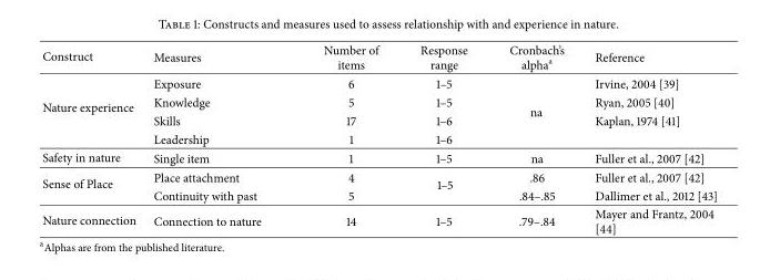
<table><thead><tr><td>Construct</td><td>Measures</td><td>Number of items</td><td>Response range</td><td>Cronbach’s alpha<sup>a</sup></td><td>Reference</td></tr></thead><tbody><tr><td rowspan="4">Nature experience</td><td>Exposure</td><td>6</td><td>1–5</td><td rowspan="4">na</td><td>Irvine, 2004 [39]</td></tr><tr><td>Knowledge</td><td>5</td><td>1–5</td><td>Ryan, 2005 [40]</td></tr><tr><td>Skills</td><td>17</td><td>1–6</td><td>Kaplan, 1974 [41]</td></tr><tr><td>Leadership</td><td>1</td><td>1–6</td><td></td></tr><tr><td>Safety in nature</td><td>Single item</td><td>1</td><td>1–5</td><td>na</td><td>Fuller et al., 2007 [42]</td></tr><tr><td rowspan="2">Sense of Place</td><td>Place attachment</td><td>4</td><td rowspan="2">1–5</td><td>.86</td><td>Fuller et al., 2007 [42]</td></tr><tr><td>Continuity with past</td><td>5</td><td>.84–.85</td><td>Dallimer et al., 2012 [43]</td></tr><tr><td>Nature connection</td><td>Connection to nature</td><td>14</td><td>1–5</td><td>.79–.84</td><td>Mayer and Frantz, 2004 [44]</td></tr></tbody></table>